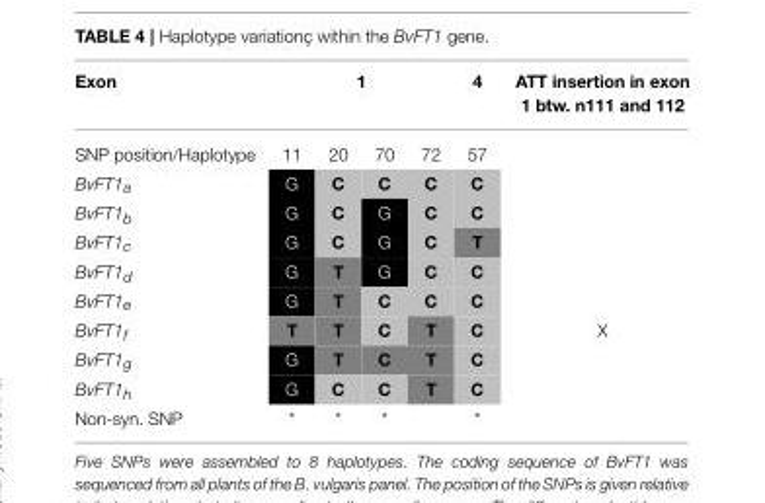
<table><thead><tr><td rowspan="2">Exon SNP position/Haplotype</td><td colspan="4">1</td><td rowspan="2">4 57</td><td rowspan="2">ATT insertion in exon 1 btw. n111 and 112</td></tr><tr><td>11</td><td>20</td><td>70</td><td>72</td></tr></thead><tbody><tr><td>BvFT1a</td><td>G</td><td>C</td><td>C</td><td>C</td><td>C</td><td></td></tr><tr><td>BvFT1b</td><td>G</td><td>C</td><td>G</td><td>C</td><td>C</td><td></td></tr><tr><td>BvFT1c</td><td>G</td><td>C</td><td>G</td><td>C</td><td>T</td><td></td></tr><tr><td>BvFT1d</td><td>G</td><td>T</td><td>G</td><td>C</td><td>C</td><td></td></tr><tr><td>BvFT1e</td><td>G</td><td>T</td><td>C</td><td>C</td><td>C</td><td></td></tr><tr><td>BvFT1f</td><td>T</td><td>T</td><td>C</td><td>T</td><td>C</td><td>X</td></tr><tr><td>BvFT1g</td><td>G</td><td>T</td><td>C</td><td>T</td><td>C</td><td></td></tr><tr><td>BvFT1h</td><td>G</td><td>C</td><td>C</td><td>T</td><td>C</td><td></td></tr><tr><td>Non-syn. SNP</td><td>*</td><td>*</td><td>*</td><td></td><td>*</td><td></td></tr></tbody></table>